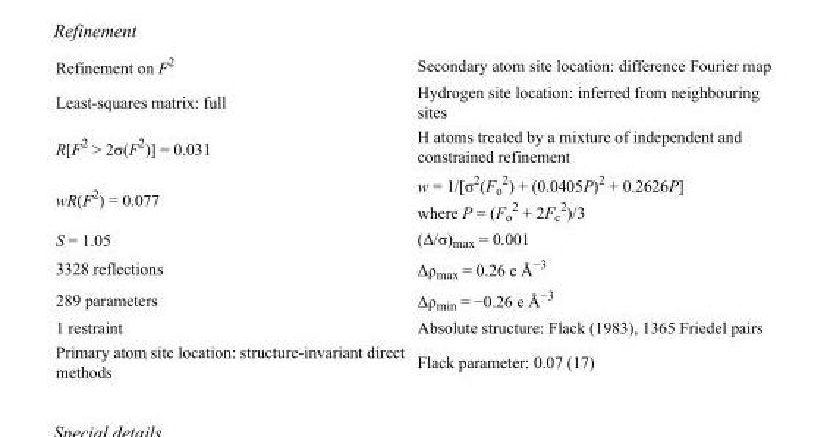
<table><tbody><tr><td>Refinement on F<sup>2</sup></td><td>Secondary atom site location: difference Fourier map</td></tr><tr><td>Least-squares matrix: full</td><td>Hydrogen site location: inferred from neighbouring sites</td></tr><tr><td>R[F<sup>2</sup> &gt; 2σ(F<sup>2</sup>)] = 0.031</td><td>H atoms treated by a mixture of independent and constrained refinement</td></tr><tr><td>wR(F<sup>2</sup>) = 0.077</td><td>w = 1/[σ<sup>2</sup>(F<sub>o</sub> <sup>2</sup>) + (0.0405P)<sup>2</sup> + 0.2626P] where P = (F<sub>o</sub> <sup>2</sup> + 2F<sub>c</sub> <sup>2</sup>)/3</td></tr><tr><td>S = 1.05</td><td>(Δ/σ)<sub>max</sub> = 0.001</td></tr><tr><td>3328 reflections</td><td>Δρ<sub>max</sub> = 0.26 e Å<sup>−3</sup></td></tr><tr><td>289 parameters</td><td>Δρ<sub>min</sub> = −0.26 e Å<sup>−3</sup></td></tr><tr><td>1 restraint</td><td>Absolute structure: Flack (1983), 1365 Friedel pairs</td></tr><tr><td>Primary atom site location: structure-invariant direct methods</td><td>Flack parameter: 0.07 (17)</td></tr></tbody></table>